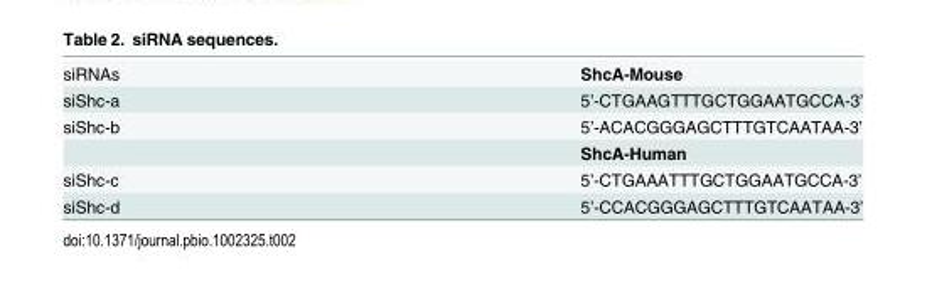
<table><tbody><tr><td>siRNAs</td><td>ShcA-Mouse</td></tr><tr><td>siShc-a</td><td>5’-CTGAAGTTTGCTGGAATGCCA-3’</td></tr><tr><td rowspan="2">siShc-b</td><td>5’-ACACGGGAGCTTTGTCAATAA-3’</td></tr><tr><td>ShcA-Human</td></tr><tr><td>siShc-c</td><td>5’-CTGAAATTTGCTGGAATGCCA-3’</td></tr><tr><td>siShc-d</td><td>5’-CCACGGGAGCTTTGTCAATAA-3’</td></tr></tbody></table>